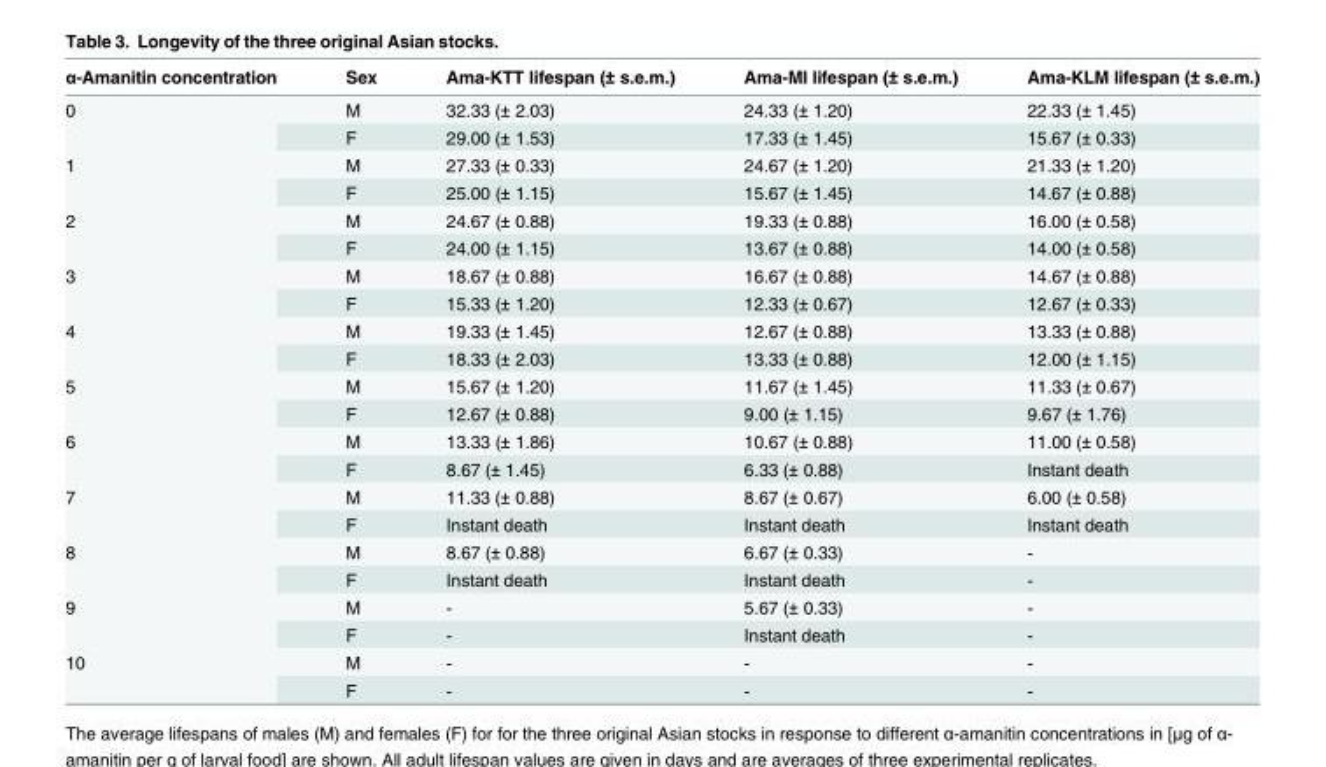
<table><thead><tr><td>α-Amanitin concentration</td><td>Sex</td><td>Ama-KTT lifespan (± s.e.m.)</td><td>Ama-MI lifespan (± s.e.m.)</td><td>Ama-KLM lifespan (± s.e.m.)</td></tr></thead><tbody><tr><td rowspan="2">0</td><td>M</td><td>32.33 (± 2.03)</td><td>24.33 (± 1.20)</td><td>22.33 (± 1.45)</td></tr><tr><td>F</td><td>29.00 (± 1.53)</td><td>17.33 (± 1.45)</td><td>15.67 (± 0.33)</td></tr><tr><td rowspan="2">1</td><td>M</td><td>27.33 (± 0.33)</td><td>24.67 (± 1.20)</td><td>21.33 (± 1.20)</td></tr><tr><td>F</td><td>25.00 (± 1.15)</td><td>15.67 (± 1.45)</td><td>14.67 (± 0.88)</td></tr><tr><td rowspan="2">2</td><td>M</td><td>24.67 (± 0.88)</td><td>19.33 (± 0.88)</td><td>16.00 (± 0.58)</td></tr><tr><td>F</td><td>24.00 (± 1.15)</td><td>13.67 (± 0.88)</td><td>14.00 (± 0.58)</td></tr><tr><td rowspan="2">3</td><td>M</td><td>18.67 (± 0.88)</td><td>16.67 (± 0.88)</td><td>14.67 (± 0.88)</td></tr><tr><td>F</td><td>15.33 (± 1.20)</td><td>12.33 (± 0.67)</td><td>12.67 (± 0.33)</td></tr><tr><td rowspan="2">4</td><td>M</td><td>19.33 (± 1.45)</td><td>12.67 (± 0.88)</td><td>13.33 (± 0.88)</td></tr><tr><td>F</td><td>18.33 (± 2.03)</td><td>13.33 (± 0.88)</td><td>12.00 (± 1.15)</td></tr><tr><td rowspan="2">5</td><td>M</td><td>15.67 (± 1.20)</td><td>11.67 (± 1.45)</td><td>11.33 (± 0.67)</td></tr><tr><td>F</td><td>12.67 (± 0.88)</td><td>9.00 (± 1.15)</td><td>9.67 (± 1.76)</td></tr><tr><td rowspan="2">6</td><td>M</td><td>13.33 (± 1.86)</td><td>10.67 (± 0.88)</td><td>11.00 (± 0.58)</td></tr><tr><td>F</td><td>8.67 (± 1.45)</td><td>6.33 (± 0.88)</td><td>Instant death</td></tr><tr><td rowspan="2">7</td><td>M</td><td>11.33 (± 0.88)</td><td>8.67 (± 0.67)</td><td>6.00 (± 0.58)</td></tr><tr><td>F</td><td>Instant death</td><td>Instant death</td><td>Instant death</td></tr><tr><td rowspan="2">8</td><td>M</td><td>8.67 (± 0.88)</td><td>6.67 (± 0.33)</td><td>-</td></tr><tr><td>F</td><td>Instant death</td><td>Instant death</td><td>-</td></tr><tr><td rowspan="2">9</td><td>M</td><td>-</td><td>5.67 (± 0.33)</td><td>-</td></tr><tr><td>F</td><td>-</td><td>Instant death</td><td>-</td></tr><tr><td rowspan="2">10</td><td>M</td><td>-</td><td>-</td><td>-</td></tr><tr><td>F</td><td>-</td><td>-</td><td>-</td></tr></tbody></table>